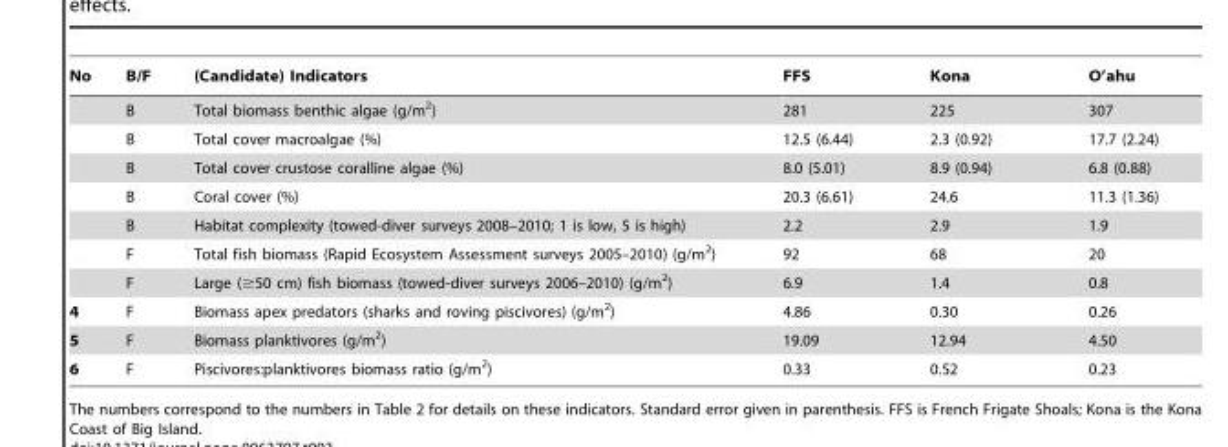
<table><thead><tr><td>No</td><td>B/F</td><td>(Candidate) Indicators</td><td>FFS</td><td>Kona</td><td>O’ahu</td></tr></thead><tbody><tr><td></td><td>B</td><td>Total biomass benthic algae (g/m<sup>2</sup>)</td><td>281</td><td>225</td><td>307</td></tr><tr><td></td><td>B</td><td>Total cover macroalgae (%)</td><td>12.5 (6.44)</td><td>2.3 (0.92)</td><td>17.7 (2.24)</td></tr><tr><td></td><td>B</td><td>Total cover crustose coralline algae (%)</td><td>8.0 (5.01)</td><td>8.9 (0.94)</td><td>6.8 (0.88)</td></tr><tr><td></td><td>B</td><td>Coral cover (%)</td><td>20.3 (6.61)</td><td>24.6</td><td>11.3 (1.36)</td></tr><tr><td></td><td>B</td><td>Habitat complexity (towed-diver surveys 2008–2010; 1 is low, 5 is high)</td><td>2.2</td><td>2.9</td><td>1.9</td></tr><tr><td></td><td>F</td><td>Total fish biomass (Rapid Ecosystem Assessment surveys 2005–2010) (g/m<sup>2</sup>)</td><td>92</td><td>68</td><td>20</td></tr><tr><td></td><td>F</td><td>Large (≥50 cm) fish biomass (towed-diver surveys 2006–2010) (g/m<sup>2</sup>)</td><td>6.9</td><td>1.4</td><td>0.8</td></tr><tr><td>4</td><td>F</td><td>Biomass apex predators (sharks and roving piscivores) (g/m<sup>2</sup>)</td><td>4.86</td><td>0.30</td><td>0.26</td></tr><tr><td>5</td><td>F</td><td>Biomass planktivores (g/m<sup>2</sup>)</td><td>19.09</td><td>12.94</td><td>4.50</td></tr><tr><td>6</td><td>F</td><td>Piscivores:planktivores biomass ratio (g/m<sup>2</sup>)</td><td>0.33</td><td>0.52</td><td>0.23</td></tr></tbody></table>